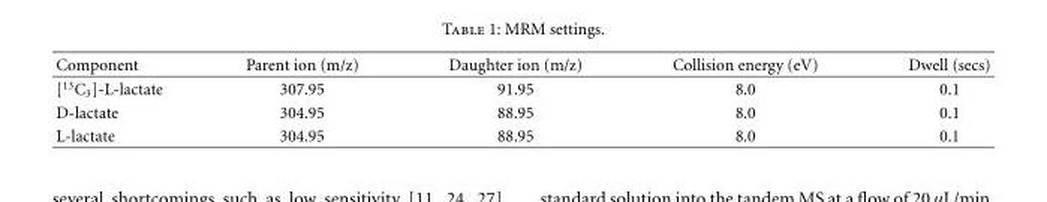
<table><thead><tr><td>Component</td><td>Parent ion (m/z)</td><td>Daughter ion (m/z)</td><td>Collision energy (eV)</td><td>Dwell (secs)</td></tr></thead><tbody><tr><td>[<sup>13</sup>C<sub>3</sub>]-L-lactate</td><td>307.95</td><td>91.95</td><td>8.0</td><td>0.1</td></tr><tr><td>D-lactate</td><td>304.95</td><td>88.95</td><td>8.0</td><td>0.1</td></tr><tr><td>L-lactate</td><td>304.95</td><td>88.95</td><td>8.0</td><td>0.1</td></tr></tbody></table>